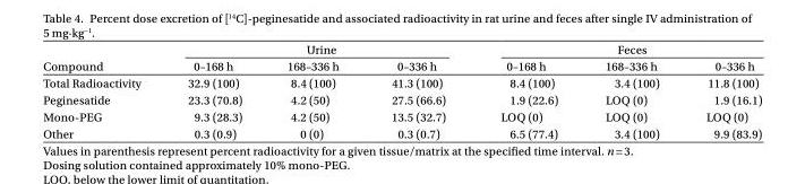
<table><thead><tr><td rowspan="2">Compound</td><td colspan="3">Urine</td><td colspan="3">Feces</td></tr><tr><td>0–168 h</td><td>168–336 h</td><td>0–336 h</td><td>0–168 h</td><td>168–336 h</td><td>0–336 h</td></tr></thead><tbody><tr><td>Total Radioactivity</td><td>32.9 (100)</td><td>8.4 (100)</td><td>41.3 (100)</td><td>8.4 (100)</td><td>3.4 (100)</td><td>11.8 (100)</td></tr><tr><td>Peginesatide</td><td>23.3 (70.8)</td><td>4.2 (50)</td><td>27.5 (66.6)</td><td>1.9 (22.6)</td><td>LOQ (0)</td><td>1.9 (16.1)</td></tr><tr><td>Mono-PEG</td><td>9.3 (28.3)</td><td>4.2 (50)</td><td>13.5 (32.7)</td><td>LOQ (0)</td><td>LOQ (0)</td><td>LOQ (0)</td></tr><tr><td>Other</td><td>0.3 (0.9)</td><td>0 (0)</td><td>0.3 (0.7)</td><td>6.5 (77.4)</td><td>3.4 (100)</td><td>9.9 (83.9)</td></tr></tbody></table>